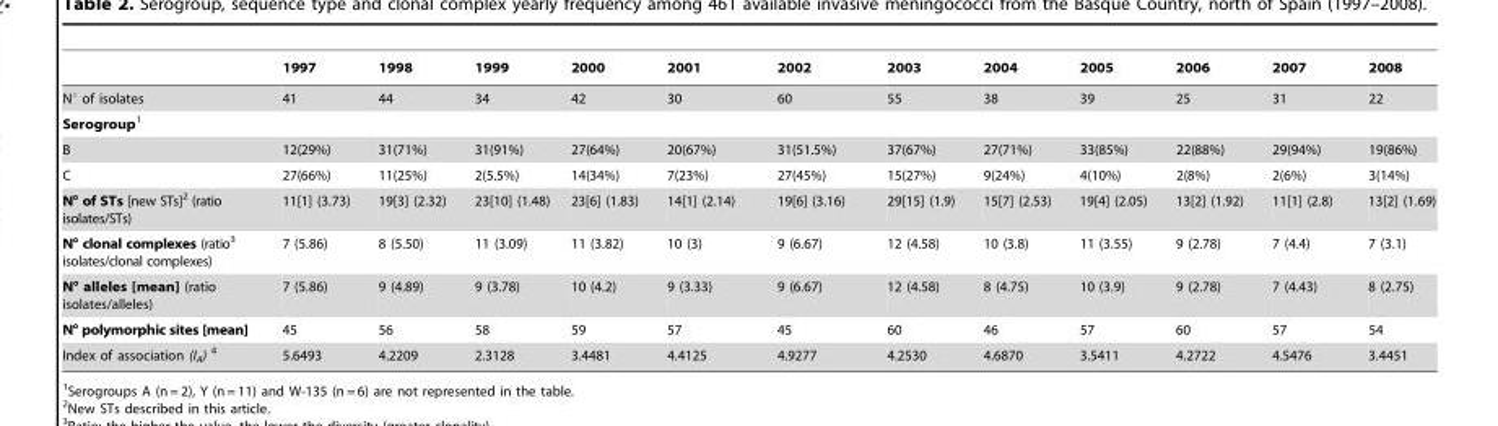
<table><thead><tr><td></td><td>1997</td><td>1998</td><td>1999</td><td>2000</td><td>2001</td><td>2002</td><td>2003</td><td>2004</td><td>2005</td><td>2006</td><td>2007</td><td>2008</td></tr></thead><tbody><tr><td>N° of isolates</td><td>41</td><td>44</td><td>34</td><td>42</td><td>30</td><td>60</td><td>55</td><td>38</td><td>39</td><td>25</td><td>31</td><td>22</td></tr><tr><td colspan="13">Serogroup1</td></tr><tr><td>B</td><td>12(29%)</td><td>31(71%)</td><td>31(91%)</td><td>27(64%)</td><td>20(67%)</td><td>31(51.5%)</td><td>37(67%)</td><td>27(71%)</td><td>33(85%)</td><td>22(88%)</td><td>29(94%)</td><td>19(86%)</td></tr><tr><td>C</td><td>27(66%)</td><td>11(25%)</td><td>2(5.5%)</td><td>14(34%)</td><td>7(23%)</td><td>27(45%)</td><td>15(27%)</td><td>9(24%)</td><td>4(10%)</td><td>2(8%)</td><td>2(6%)</td><td>3(14%)</td></tr><tr><td>N° of STs [new STs]<sup>2</sup> (ratio isolates/STs)</td><td>11[1] (3.73)</td><td>19[3] (2.32)</td><td>23[10] (1.48)</td><td>23[6] (1.83)</td><td>14[1] (2.14)</td><td>19[6] (3.16)</td><td>29[15] (1.9)</td><td>15[7] (2.53)</td><td>19[4] (2.05)</td><td>13[2] (1.92)</td><td>11[1] (2.8)</td><td>13[2] (1.69)</td></tr><tr><td>N° clonal complexes (ratio<sup>3</sup> isolates/clonal complexes)</td><td>7 (5.86)</td><td>8 (5.50)</td><td>11 (3.09)</td><td>11 (3.82)</td><td>10 (3)</td><td>9 (6.67)</td><td>12 (4.58)</td><td>10 (3.8)</td><td>11 (3.55)</td><td>9 (2.78)</td><td>7 (4.4)</td><td>7 (3.1)</td></tr><tr><td>N° alleles [mean] (ratio isolates/alleles)</td><td>7 (5.86)</td><td>9 (4.89)</td><td>9 (3.78)</td><td>10 (4.2)</td><td>9 (3.33)</td><td>9 (6.67)</td><td>12 (4.58)</td><td>8 (4.75)</td><td>10 (3.9)</td><td>9 (2.78)</td><td>7 (4.43)</td><td>8 (2.75)</td></tr><tr><td>N° polymorphic sites [mean]</td><td>45</td><td>56</td><td>58</td><td>59</td><td>57</td><td>45</td><td>60</td><td>46</td><td>57</td><td>60</td><td>57</td><td>54</td></tr><tr><td>Index of association (I<sub>A</sub>) 4</td><td>5.6493</td><td>4.2209</td><td>2.3128</td><td>3.4481</td><td>4.4125</td><td>4.9277</td><td>4.2530</td><td>4.6870</td><td>3.5411</td><td>4.2722</td><td>4.5476</td><td>3.4451</td></tr></tbody></table>